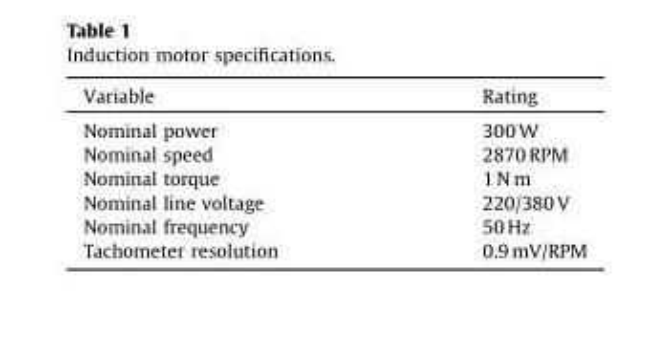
<table><thead><tr><td>Variable</td><td>Rating</td></tr></thead><tbody><tr><td>Nominal power</td><td>300 W</td></tr><tr><td>Nominal speed</td><td>2870 RPM</td></tr><tr><td>Nominal torque</td><td>1 N m</td></tr><tr><td>Nominal line voltage</td><td>220/380 V</td></tr><tr><td>Nominal frequency</td><td>50 Hz</td></tr><tr><td>Tachometer resolution</td><td>0.9 mV/RPM</td></tr></tbody></table>